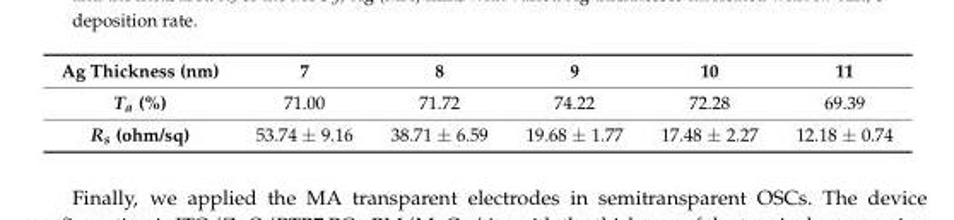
<table><thead><tr><td>Ag Thickness (nm)</td><td>7</td><td>8</td><td>9</td><td>10</td><td>11</td></tr></thead><tbody><tr><td>T<sub>a</sub> (%)</td><td>71.00</td><td>71.72</td><td>74.22</td><td>72.28</td><td>69.39</td></tr><tr><td>R<sub>s</sub> (ohm/sq)</td><td>53.74 ± 9.16</td><td>38.71 ± 6.59</td><td>19.68 ± 1.77</td><td>17.48 ± 2.27</td><td>12.18 ± 0.74</td></tr></tbody></table>